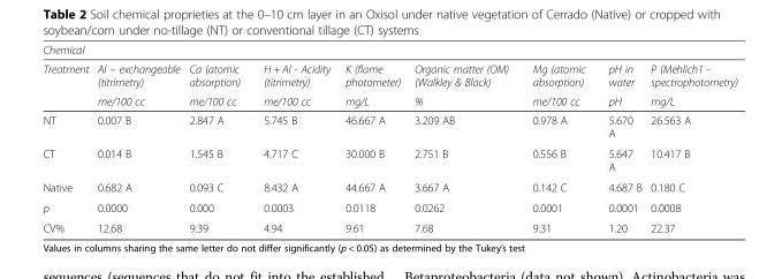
<table><thead><tr><td colspan="9">Chemical</td></tr><tr><td rowspan="2">Treatment</td><td rowspan="2">Al – exchangeable (titrimetry) me/100 cc</td><td rowspan="2">Ca (atomic absorption) me/100 cc</td><td rowspan="2">H + Al - Acidity (titrimetry) me/100 cc</td><td rowspan="2">K (flame photometer) mg/L</td><td rowspan="2">Organic matter (OM) (Walkley &amp; Black) %</td><td rowspan="2">Mg (atomic absorption) me/100 cc</td><td rowspan="2">pH in water pH</td><td rowspan="2">P (Mehlich1 - spectrophotometry) mg/L</td></tr><tr></tr></thead><tbody><tr><td>NT</td><td>0.007 B</td><td>2.847 A</td><td>5.745 B</td><td>46.667 A</td><td>3.209 AB</td><td>0.978 A</td><td>5.670 A</td><td>26.563 A</td></tr><tr><td>CT</td><td>0.014 B</td><td>1.545 B</td><td>4.717 C</td><td>30.000 B</td><td>2.751 B</td><td>0.556 B</td><td>5.647 A</td><td>10.417 B</td></tr><tr><td>Native</td><td>0.682 A</td><td>0.093 C</td><td>8.432 A</td><td>44.667 A</td><td>3.667 A</td><td>0.142 C</td><td>4.687 B</td><td>0.180 C</td></tr><tr><td>p</td><td>0.0000</td><td>0.000</td><td>0.0003</td><td>0.0118</td><td>0.0262</td><td>0.0001</td><td>0.0001</td><td>0.0008</td></tr><tr><td>CV%</td><td>12.68</td><td>9.39</td><td>4.94</td><td>9.61</td><td>7.68</td><td>9.31</td><td>1.20</td><td>22.37</td></tr></tbody></table>